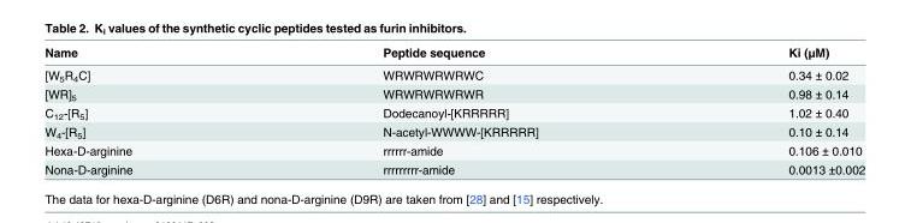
<table><thead><tr><td>Name</td><td>Peptide sequence</td><td>Ki (μM)</td></tr></thead><tbody><tr><td>[W<sub>5</sub>R<sub>4</sub>C]</td><td>WRWRWRWRWC</td><td>0.34 ± 0.02</td></tr><tr><td>[WR]<sub>5</sub></td><td>WRWRWRWRWR</td><td>0.98 ± 0.14</td></tr><tr><td>C<sub>12</sub>-[R<sub>5</sub>]</td><td>Dodecanoyl-[KRRRRR]</td><td>1.02 ± 0.40</td></tr><tr><td>W<sub>4</sub>-[R<sub>5</sub>]</td><td>N-acetyl-WWWW-[KRRRRR]</td><td>0.10 ± 0.14</td></tr><tr><td>Hexa-D-arginine</td><td>rrrrrr-amide</td><td>0.106 ± 0.010</td></tr><tr><td>Nona-D-arginine</td><td>rrrrrrrrr-amide</td><td>0.0013 ±0.002</td></tr></tbody></table>